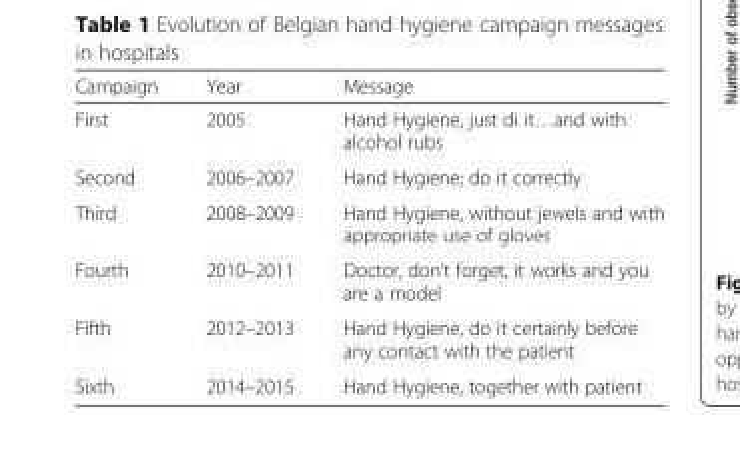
<table><thead><tr><td>Campaign</td><td>Year</td><td>Message</td></tr></thead><tbody><tr><td>First</td><td>2005</td><td>Hand Hygiene, just di it…and with alcohol rubs</td></tr><tr><td>Second</td><td>2006–2007</td><td>Hand Hygiene; do it correctly</td></tr><tr><td>Third</td><td>2008–2009</td><td>Hand Hygiene, without jewels and with appropriate use of gloves</td></tr><tr><td>Fourth</td><td>2010–2011</td><td>Doctor, don’t forget, it works and you are a model</td></tr><tr><td>Fifth</td><td>2012–2013</td><td>Hand Hygiene, do it certainly before any contact with the patient</td></tr><tr><td>Sixth</td><td>2014–2015</td><td>Hand Hygiene, together with patient</td></tr></tbody></table>